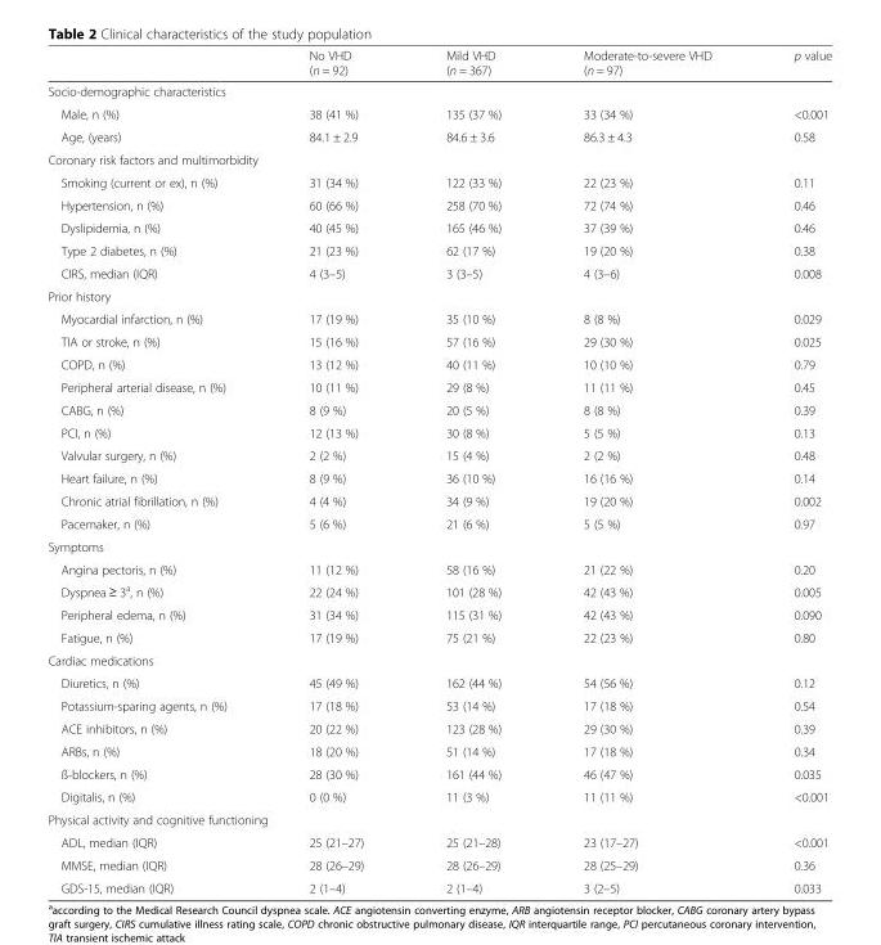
<table><thead><tr><td></td><td>No VHD (n = 92)</td><td>Mild VHD (n = 367)</td><td>Moderate-to-severe VHD (n = 97)</td><td>p value</td></tr></thead><tbody><tr><td colspan="5">Socio-demographic characteristics</td></tr><tr><td>Male, n (%)</td><td>38 (41 %)</td><td>135 (37 %)</td><td>33 (34 %)</td><td>&lt;0.001</td></tr><tr><td>Age, (years)</td><td>84.1 ± 2.9</td><td>84.6 ± 3.6</td><td>86.3 ± 4.3</td><td>0.58</td></tr><tr><td colspan="5">Coronary risk factors and multimorbidity</td></tr><tr><td>Smoking (current or ex), n (%)</td><td>31 (34 %)</td><td>122 (33 %)</td><td>22 (23 %)</td><td>0.11</td></tr><tr><td>Hypertension, n (%)</td><td>60 (66 %)</td><td>258 (70 %)</td><td>72 (74 %)</td><td>0.46</td></tr><tr><td>Dyslipidemia, n (%)</td><td>40 (45 %)</td><td>165 (46 %)</td><td>37 (39 %)</td><td>0.46</td></tr><tr><td>Type 2 diabetes, n (%)</td><td>21 (23 %)</td><td>62 (17 %)</td><td>19 (20 %)</td><td>0.38</td></tr><tr><td>CIRS, median (IQR)</td><td>4 (3–5)</td><td>3 (3–5)</td><td>4 (3–6)</td><td>0.008</td></tr><tr><td colspan="5">Prior history</td></tr><tr><td>Myocardial infarction, n (%)</td><td>17 (19 %)</td><td>35 (10 %)</td><td>8 (8 %)</td><td>0.029</td></tr><tr><td>TIA or stroke, n (%)</td><td>15 (16 %)</td><td>57 (16 %)</td><td>29 (30 %)</td><td>0.025</td></tr><tr><td>COPD, n (%)</td><td>13 (12 %)</td><td>40 (11 %)</td><td>10 (10 %)</td><td>0.79</td></tr><tr><td>Peripheral arterial disease, n (%)</td><td>10 (11 %)</td><td>29 (8 %)</td><td>11 (11 %)</td><td>0.45</td></tr><tr><td>CABG, n (%)</td><td>8 (9 %)</td><td>20 (5 %)</td><td>8 (8 %)</td><td>0.39</td></tr><tr><td>PCI, n (%)</td><td>12 (13 %)</td><td>30 (8 %)</td><td>5 (5 %)</td><td>0.13</td></tr><tr><td>Valvular surgery, n (%)</td><td>2 (2 %)</td><td>15 (4 %)</td><td>2 (2 %)</td><td>0.48</td></tr><tr><td>Heart failure, n (%)</td><td>8 (9 %)</td><td>36 (10 %)</td><td>16 (16 %)</td><td>0.14</td></tr><tr><td>Chronic atrial fibrillation, n (%)</td><td>4 (4 %)</td><td>34 (9 %)</td><td>19 (20 %)</td><td>0.002</td></tr><tr><td>Pacemaker, n (%)</td><td>5 (6 %)</td><td>21 (6 %)</td><td>5 (5 %)</td><td>0.97</td></tr><tr><td colspan="5">Symptoms</td></tr><tr><td>Angina pectoris, n (%)</td><td>11 (12 %)</td><td>58 (16 %)</td><td>21 (22 %)</td><td>0.20</td></tr><tr><td>Dyspnea ≥ 3<sup>a</sup>, n (%)</td><td>22 (24 %)</td><td>101 (28 %)</td><td>42 (43 %)</td><td>0.005</td></tr><tr><td>Peripheral edema, n (%)</td><td>31 (34 %)</td><td>115 (31 %)</td><td>42 (43 %)</td><td>0.090</td></tr><tr><td>Fatigue, n (%)</td><td>17 (19 %)</td><td>75 (21 %)</td><td>22 (23 %)</td><td>0.80</td></tr><tr><td colspan="5">Cardiac medications</td></tr><tr><td>Diuretics, n (%)</td><td>45 (49 %)</td><td>162 (44 %)</td><td>54 (56 %)</td><td>0.12</td></tr><tr><td>Potassium-sparing agents, n (%)</td><td>17 (18 %)</td><td>53 (14 %)</td><td>17 (18 %)</td><td>0.54</td></tr><tr><td>ACE inhibitors, n (%)</td><td>20 (22 %)</td><td>123 (28 %)</td><td>29 (30 %)</td><td>0.39</td></tr><tr><td>ARBs, n (%)</td><td>18 (20 %)</td><td>51 (14 %)</td><td>17 (18 %)</td><td>0.34</td></tr><tr><td>ß-blockers, n (%)</td><td>28 (30 %)</td><td>161 (44 %)</td><td>46 (47 %)</td><td>0.035</td></tr><tr><td>Digitalis, n (%)</td><td>0 (0 %)</td><td>11 (3 %)</td><td>11 (11 %)</td><td>&lt;0.001</td></tr><tr><td colspan="5">Physical activity and cognitive functioning</td></tr><tr><td>ADL, median (IQR)</td><td>25 (21–27)</td><td>25 (21–28)</td><td>23 (17–27)</td><td>&lt;0.001</td></tr><tr><td>MMSE, median (IQR)</td><td>28 (26–29)</td><td>28 (26–29)</td><td>28 (25–29)</td><td>0.36</td></tr><tr><td>GDS-15, median (IQR)</td><td>2 (1–4)</td><td>2 (1–4)</td><td>3 (2–5)</td><td>0.033</td></tr></tbody></table>